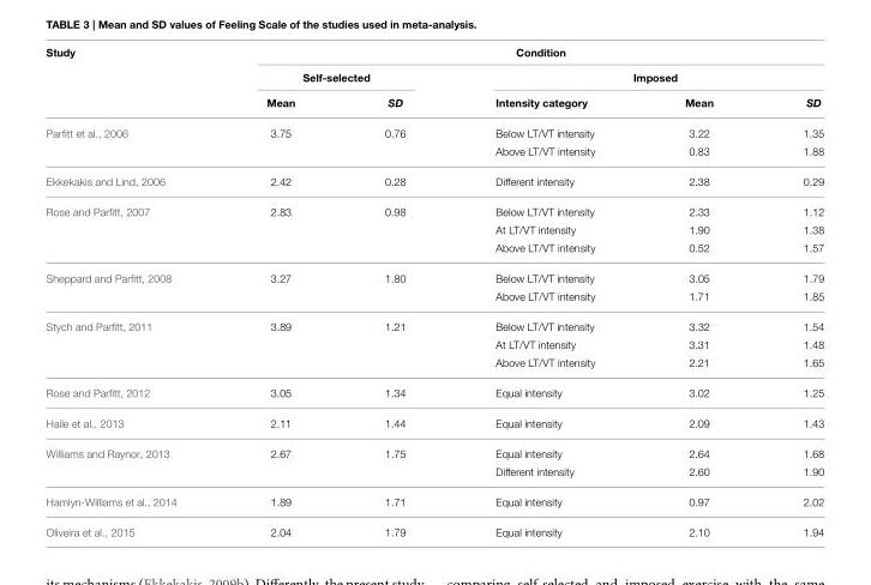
<table><thead><tr><td rowspan="3">Study</td><td colspan="5">Condition</td></tr><tr><td colspan="2">Self-selected</td><td colspan="3">Imposed</td></tr><tr><td>Mean</td><td>SD</td><td>Intensity category</td><td>Mean</td><td>SD</td></tr></thead><tbody><tr><td rowspan="2">Parfitt et al., 2006</td><td>3.75</td><td>0.76</td><td>Below LT/VT intensity</td><td>3.22</td><td>1.35</td></tr><tr><td></td><td></td><td>Above LT/VT intensity</td><td>0.83</td><td>1.88</td></tr><tr><td>Ekkekakis and Lind, 2006</td><td>2.42</td><td>0.28</td><td>Different intensity</td><td>2.38</td><td>0.29</td></tr><tr><td rowspan="3">Rose and Parfitt, 2007</td><td>2.83</td><td>0.98</td><td>Below LT/VT intensity</td><td>2.33</td><td>1.12</td></tr><tr><td></td><td></td><td>At LT/VT intensity</td><td>1.90</td><td>1.38</td></tr><tr><td></td><td></td><td>Above LT/VT intensity</td><td>0.52</td><td>1.57</td></tr><tr><td rowspan="2">Sheppard and Parfitt, 2008</td><td>3.27</td><td>1.80</td><td>Below LT/VT intensity</td><td>3.05</td><td>1.79</td></tr><tr><td></td><td></td><td>Above LT/VT intensity</td><td>1.71</td><td>1.85</td></tr><tr><td rowspan="3">Stych and Parfitt, 2011</td><td>3.89</td><td>1.21</td><td>Below LT/VT intensity</td><td>3.32</td><td>1.54</td></tr><tr><td></td><td></td><td>At LT/VT intensity</td><td>3.31</td><td>1.48</td></tr><tr><td></td><td></td><td>Above LT/VT intensity</td><td>2.21</td><td>1.65</td></tr><tr><td>Rose and Parfitt, 2012</td><td>3.05</td><td>1.34</td><td>Equal intensity</td><td>3.02</td><td>1.25</td></tr><tr><td>Haile et al., 2013</td><td>2.11</td><td>1.44</td><td>Equal intensity</td><td>2.09</td><td>1.43</td></tr><tr><td rowspan="2">Williams and Raynor, 2013</td><td>2.67</td><td>1.75</td><td>Equal intensity</td><td>2.64</td><td>1.68</td></tr><tr><td></td><td></td><td>Different intensity</td><td>2.60</td><td>1.90</td></tr><tr><td>Hamlyn-Williams et al., 2014</td><td>1.89</td><td>1.71</td><td>Equal intensity</td><td>0.97</td><td>2.02</td></tr><tr><td>Oliveira et al., 2015</td><td>2.04</td><td>1.79</td><td>Equal intensity</td><td>2.10</td><td>1.94</td></tr></tbody></table>